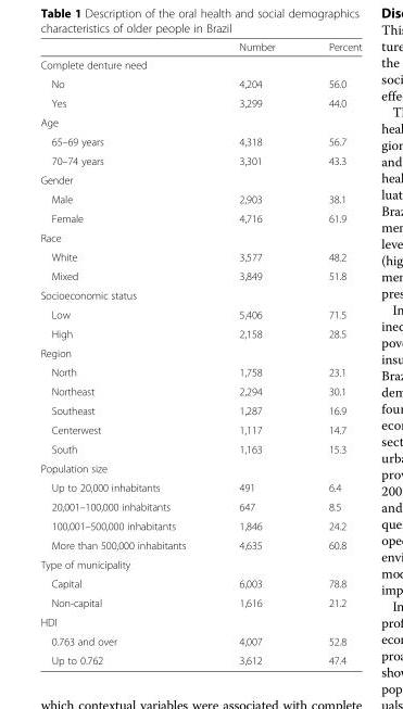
<table><thead><tr><td></td><td>Number</td><td>Percent</td></tr></thead><tbody><tr><td colspan="3">Complete denture need</td></tr><tr><td>No</td><td>4,204</td><td>56.0</td></tr><tr><td>Yes</td><td>3,299</td><td>44.0</td></tr><tr><td colspan="3">Age</td></tr><tr><td>65–69 years</td><td>4,318</td><td>56.7</td></tr><tr><td>70–74 years</td><td>3,301</td><td>43.3</td></tr><tr><td colspan="3">Gender</td></tr><tr><td>Male</td><td>2,903</td><td>38.1</td></tr><tr><td>Female</td><td>4,716</td><td>61.9</td></tr><tr><td colspan="3">Race</td></tr><tr><td>White</td><td>3,577</td><td>48.2</td></tr><tr><td>Mixed</td><td>3,849</td><td>51.8</td></tr><tr><td colspan="3">Socioeconomic status</td></tr><tr><td>Low</td><td>5,406</td><td>71.5</td></tr><tr><td>High</td><td>2,158</td><td>28.5</td></tr><tr><td colspan="3">Region</td></tr><tr><td>North</td><td>1,758</td><td>23.1</td></tr><tr><td>Northeast</td><td>2,294</td><td>30.1</td></tr><tr><td>Southeast</td><td>1,287</td><td>16.9</td></tr><tr><td>Centerwest</td><td>1,117</td><td>14.7</td></tr><tr><td>South</td><td>1,163</td><td>15.3</td></tr><tr><td colspan="3">Population size</td></tr><tr><td>Up to 20,000 inhabitants</td><td>491</td><td>6.4</td></tr><tr><td>20,001–100,000 inhabitants</td><td>647</td><td>8.5</td></tr><tr><td>100,001–500,000 inhabitants</td><td>1,846</td><td>24.2</td></tr><tr><td>More than 500,000 inhabitants</td><td>4,635</td><td>60.8</td></tr><tr><td colspan="3">Type of municipality</td></tr><tr><td>Capital</td><td>6,003</td><td>78.8</td></tr><tr><td>Non-capital</td><td>1,616</td><td>21.2</td></tr><tr><td colspan="3">HDI</td></tr><tr><td>0.763 and over</td><td>4,007</td><td>52.8</td></tr><tr><td>Up to 0.762</td><td>3,612</td><td>47.4</td></tr></tbody></table>